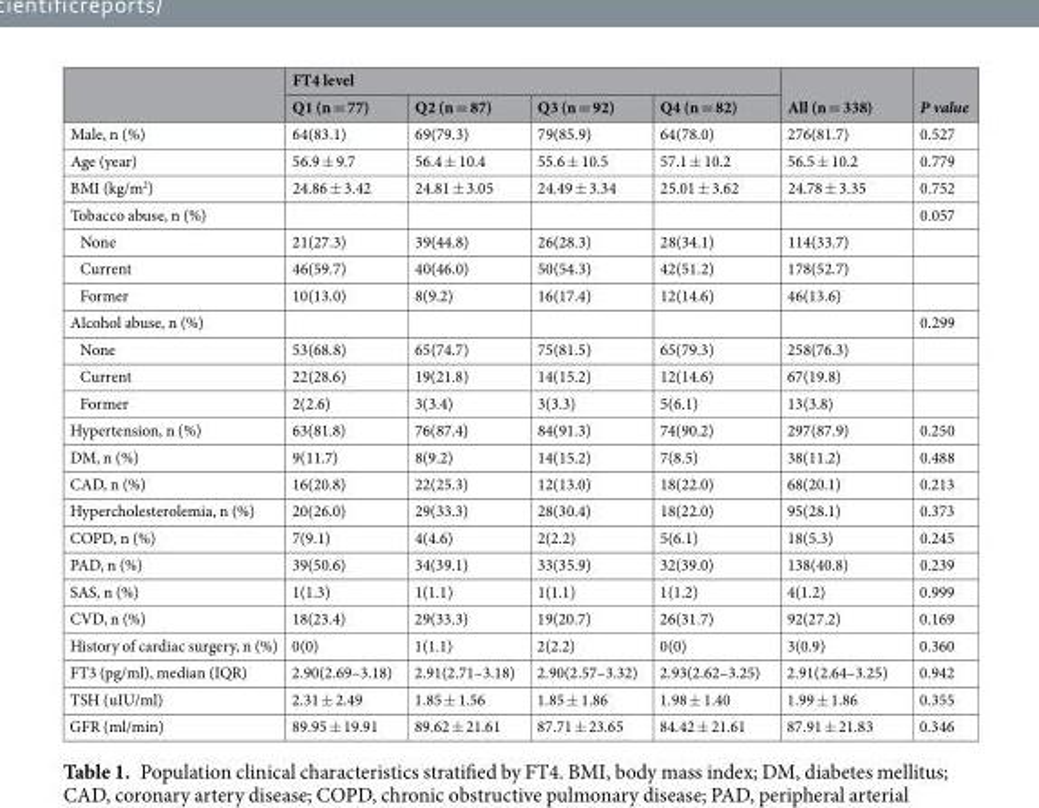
<table><thead><tr><td rowspan="2"></td><td colspan="4">FT4 level</td><td rowspan="2">All (n = 338)</td><td rowspan="2">P value</td></tr><tr><td>Q1 (n = 77)</td><td>Q2 (n = 87)</td><td>Q3 (n = 92)</td><td>Q4 (n = 82)</td></tr></thead><tbody><tr><td>Male, n (%)</td><td>64(83.1)</td><td>69(79.3)</td><td>79(85.9)</td><td>64(78.0)</td><td>276(81.7)</td><td>0.527</td></tr><tr><td>Age (year)</td><td>56.9 ± 9.7</td><td>56.4 ± 10.4</td><td>55.6 ± 10.5</td><td>57.1 ± 10.2</td><td>56.5 ± 10.2</td><td>0.779</td></tr><tr><td>BMI (kg/m<sup>2</sup>)</td><td>24.86 ± 3.42</td><td>24.81 ± 3.05</td><td>24.49 ± 3.34</td><td>25.01 ± 3.62</td><td>24.78 ± 3.35</td><td>0.752</td></tr><tr><td>Tobacco abuse, n (%)</td><td></td><td></td><td></td><td></td><td></td><td>0.057</td></tr><tr><td>None</td><td>21(27.3)</td><td>39(44.8)</td><td>26(28.3)</td><td>28(34.1)</td><td>114(33.7)</td><td></td></tr><tr><td>Current</td><td>46(59.7)</td><td>40(46.0)</td><td>50(54.3)</td><td>42(51.2)</td><td>178(52.7)</td><td></td></tr><tr><td>Former</td><td>10(13.0)</td><td>8(9.2)</td><td>16(17.4)</td><td>12(14.6)</td><td>46(13.6)</td><td></td></tr><tr><td>Alcohol abuse, n (%)</td><td></td><td></td><td></td><td></td><td></td><td>0.299</td></tr><tr><td>None</td><td>53(68.8)</td><td>65(74.7)</td><td>75(81.5)</td><td>65(79.3)</td><td>258(76.3)</td><td></td></tr><tr><td>Current</td><td>22(28.6)</td><td>19(21.8)</td><td>14(15.2)</td><td>12(14.6)</td><td>67(19.8)</td><td></td></tr><tr><td>Former</td><td>2(2.6)</td><td>3(3.4)</td><td>3(3.3)</td><td>5(6.1)</td><td>13(3.8)</td><td></td></tr><tr><td>Hypertension, n (%)</td><td>63(81.8)</td><td>76(87.4)</td><td>84(91.3)</td><td>74(90.2)</td><td>297(87.9)</td><td>0.250</td></tr><tr><td>DM, n (%)</td><td>9(11.7)</td><td>8(9.2)</td><td>14(15.2)</td><td>7(8.5)</td><td>38(11.2)</td><td>0.488</td></tr><tr><td>CAD, n (%)</td><td>16(20.8)</td><td>22(25.3)</td><td>12(13.0)</td><td>18(22.0)</td><td>68(20.1)</td><td>0.213</td></tr><tr><td>Hypercholesterolemia, n (%)</td><td>20(26.0)</td><td>29(33.3)</td><td>28(30.4)</td><td>18(22.0)</td><td>95(28.1)</td><td>0.373</td></tr><tr><td>COPD, n (%)</td><td>7(9.1)</td><td>4(4.6)</td><td>2(2.2)</td><td>5(6.1)</td><td>18(5.3)</td><td>0.245</td></tr><tr><td>PAD, n (%)</td><td>39(50.6)</td><td>34(39.1)</td><td>33(35.9)</td><td>32(39.0)</td><td>138(40.8)</td><td>0.239</td></tr><tr><td>SAS, n (%)</td><td>1(1.3)</td><td>1(1.1)</td><td>1(1.1)</td><td>1(1.2)</td><td>4(1.2)</td><td>0.999</td></tr><tr><td>CVD, n (%)</td><td>18(23.4)</td><td>29(33.3)</td><td>19(20.7)</td><td>26(31.7)</td><td>92(27.2)</td><td>0.169</td></tr><tr><td>History of cardiac surgery, n (%)</td><td>0(0)</td><td>1(1.1)</td><td>2(2.2)</td><td>0(0)</td><td>3(0.9)</td><td>0.360</td></tr><tr><td>FT3 (pg/ml), median (IQR)</td><td>2.90(2.69–3.18)</td><td>2.91(2.71–3.18)</td><td>2.90(2.57–3.32)</td><td>2.93(2.62–3.25)</td><td>2.91(2.64–3.25)</td><td>0.942</td></tr><tr><td>TSH (uIU/ml)</td><td>2.31 ± 2.49</td><td>1.85 ± 1.56</td><td>1.85 ± 1.86</td><td>1.98 ± 1.40</td><td>1.99 ± 1.86</td><td>0.355</td></tr><tr><td>GFR (ml/min)</td><td>89.95 ± 19.91</td><td>89.62 ± 21.61</td><td>87.71 ± 23.65</td><td>84.42 ± 21.61</td><td>87.91 ± 21.83</td><td>0.346</td></tr></tbody></table>